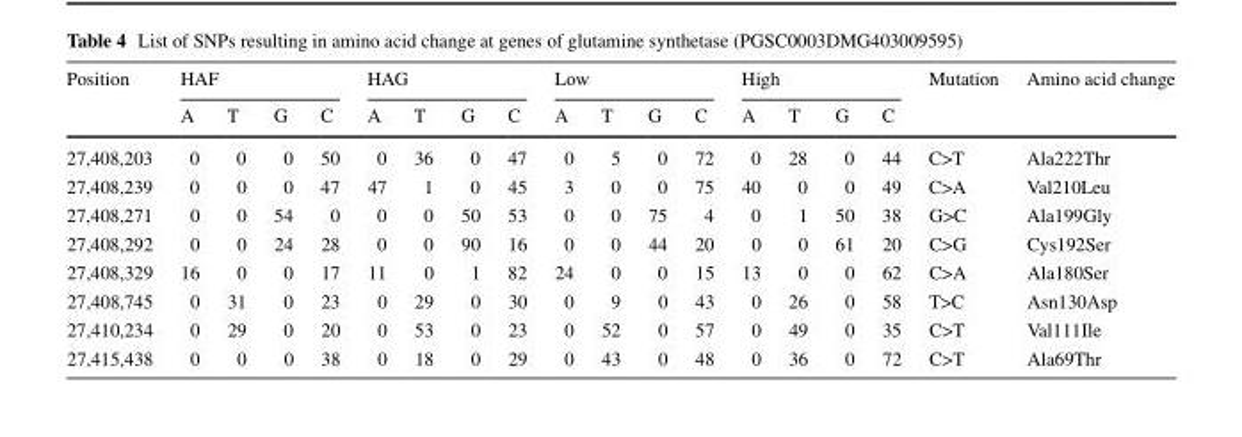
<table><thead><tr><td rowspan="2">Position</td><td colspan="4">HAF</td><td colspan="4">HAG</td><td colspan="4">Low</td><td colspan="4">High</td><td rowspan="2">Mutation</td><td rowspan="2">Amino acid change</td></tr><tr><td>A</td><td>T</td><td>G</td><td>C</td><td>A</td><td>T</td><td>G</td><td>C</td><td>A</td><td>T</td><td>G</td><td>C</td><td>A</td><td>T</td><td>G</td><td>C</td></tr></thead><tbody><tr><td>27,408,203</td><td>0</td><td>0</td><td>0</td><td>50</td><td>0</td><td>36</td><td>0</td><td>47</td><td>0</td><td>5</td><td>0</td><td>72</td><td>0</td><td>28</td><td>0</td><td>44</td><td>C&gt;T</td><td>Ala222Thr</td></tr><tr><td>27,408,239</td><td>0</td><td>0</td><td>0</td><td>47</td><td>47</td><td>1</td><td>0</td><td>45</td><td>3</td><td>0</td><td>0</td><td>75</td><td>40</td><td>0</td><td>0</td><td>49</td><td>C&gt;A</td><td>Val210Leu</td></tr><tr><td>27,408,271</td><td>0</td><td>0</td><td>54</td><td>0</td><td>0</td><td>0</td><td>50</td><td>53</td><td>0</td><td>0</td><td>75</td><td>4</td><td>0</td><td>1</td><td>50</td><td>38</td><td>G&gt;C</td><td>Ala199Gly</td></tr><tr><td>27,408,292</td><td>0</td><td>0</td><td>24</td><td>28</td><td>0</td><td>0</td><td>90</td><td>16</td><td>0</td><td>0</td><td>44</td><td>20</td><td>0</td><td>0</td><td>61</td><td>20</td><td>C&gt;G</td><td>Cys192Ser</td></tr><tr><td>27,408,329</td><td>16</td><td>0</td><td>0</td><td>17</td><td>11</td><td>0</td><td>1</td><td>82</td><td>24</td><td>0</td><td>0</td><td>15</td><td>13</td><td>0</td><td>0</td><td>62</td><td>C&gt;A</td><td>Ala180Ser</td></tr><tr><td>27,408,745</td><td>0</td><td>31</td><td>0</td><td>23</td><td>0</td><td>29</td><td>0</td><td>30</td><td>0</td><td>9</td><td>0</td><td>43</td><td>0</td><td>26</td><td>0</td><td>58</td><td>T&gt;C</td><td>Asn130Asp</td></tr><tr><td>27,410,234</td><td>0</td><td>29</td><td>0</td><td>20</td><td>0</td><td>53</td><td>0</td><td>23</td><td>0</td><td>52</td><td>0</td><td>57</td><td>0</td><td>49</td><td>0</td><td>35</td><td>C&gt;T</td><td>Val111Ile</td></tr><tr><td>27,415,438</td><td>0</td><td>0</td><td>0</td><td>38</td><td>0</td><td>18</td><td>0</td><td>29</td><td>0</td><td>43</td><td>0</td><td>48</td><td>0</td><td>36</td><td>0</td><td>72</td><td>C&gt;T</td><td>Ala69Thr</td></tr></tbody></table>